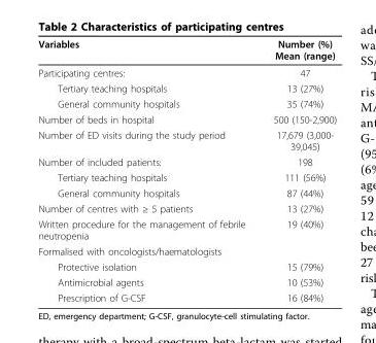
<table><thead><tr><td>Variables</td><td>Number (%) Mean (range)</td></tr></thead><tbody><tr><td>Participating centres:</td><td>47</td></tr><tr><td>Tertiary teaching hospitals</td><td>13 (27%)</td></tr><tr><td>General community hospitals</td><td>35 (74%)</td></tr><tr><td>Number of beds in hospital</td><td>500 (150-2,900)</td></tr><tr><td>Number of ED visits during the study period</td><td>17,679 (3,000- 39,045)</td></tr><tr><td>Number of included patients:</td><td>198</td></tr><tr><td>Tertiary teaching hospitals</td><td>111 (56%)</td></tr><tr><td>General community hospitals</td><td>87 (44%)</td></tr><tr><td>Number of centres with ≥ 5 patients</td><td>13 (27%)</td></tr><tr><td>Written procedure for the management of febrile neutropenia</td><td>19 (40%)</td></tr><tr><td colspan="2">Formalised with oncologists/haematologists</td></tr><tr><td>Protective isolation</td><td>15 (79%)</td></tr><tr><td>Antimicrobial agents</td><td>10 (53%)</td></tr><tr><td>Prescription of G-CSF</td><td>16 (84%)</td></tr></tbody></table>